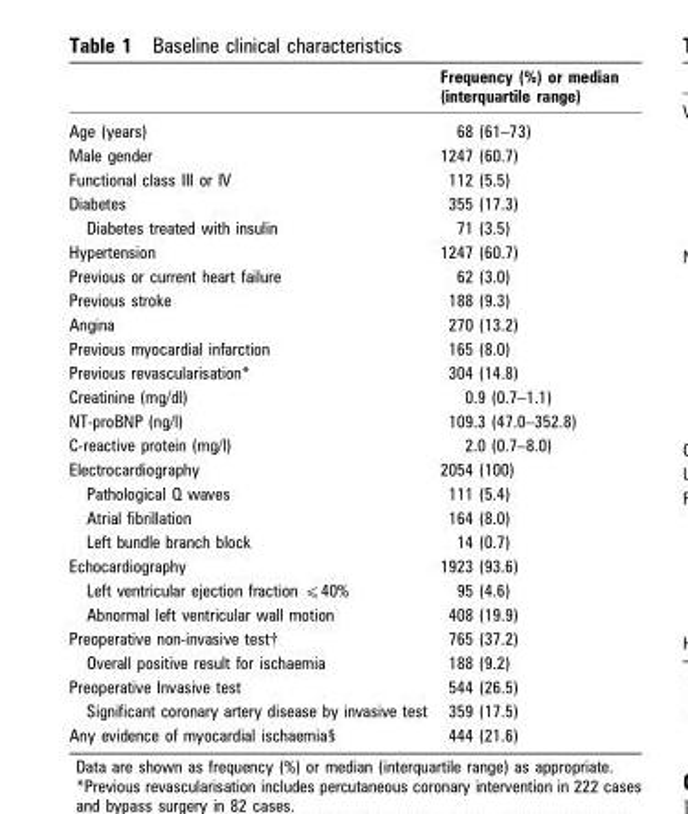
<table><thead><tr><td></td><td>Frequency (%) or median (interquartile range)</td></tr></thead><tbody><tr><td>Age (years)</td><td>68 (61–73)</td></tr><tr><td>Male gender</td><td>1247 (60.7)</td></tr><tr><td>Functional class III or IV</td><td>112 (5.5)</td></tr><tr><td>Diabetes</td><td>355 (17.3)</td></tr><tr><td>Diabetes treated with insulin</td><td>71 (3.5)</td></tr><tr><td>Hypertension</td><td>1247 (60.7)</td></tr><tr><td>Previous or current heart failure</td><td>62 (3.0)</td></tr><tr><td>Previous stroke</td><td>188 (9.3)</td></tr><tr><td>Angina</td><td>270 (13.2)</td></tr><tr><td>Previous myocardial infarction</td><td>165 (8.0)</td></tr><tr><td>Previous revascularisation*</td><td>304 (14.8)</td></tr><tr><td>Creatinine (mg/dl)</td><td>0.9 (0.7–1.1)</td></tr><tr><td>NT-proBNP (ng/l)</td><td>109.3 (47.0–352.8)</td></tr><tr><td>C-reactive protein (mg/l)</td><td>2.0 (0.7–8.0)</td></tr><tr><td>Electrocardiography</td><td>2054 (100)</td></tr><tr><td>Pathological Q waves</td><td>111 (5.4)</td></tr><tr><td>Atrial fibrillation</td><td>164 (8.0)</td></tr><tr><td>Left bundle branch block</td><td>14 (0.7)</td></tr><tr><td>Echocardiography</td><td>1923 (93.6)</td></tr><tr><td>Left ventricular ejection fraction ⩽40%</td><td>95 (4.6)</td></tr><tr><td>Abnormal left ventricular wall motion</td><td>408 (19.9)</td></tr><tr><td>Preoperative non-invasive test†</td><td>765 (37.2)</td></tr><tr><td>Overall positive result for ischaemia</td><td>188 (9.2)</td></tr><tr><td>Preoperative Invasive test</td><td>544 (26.5)</td></tr><tr><td>Significant coronary artery disease by invasive test</td><td>359 (17.5)</td></tr><tr><td>Any evidence of myocardial ischaemia§</td><td>444 (21.6)</td></tr></tbody></table>